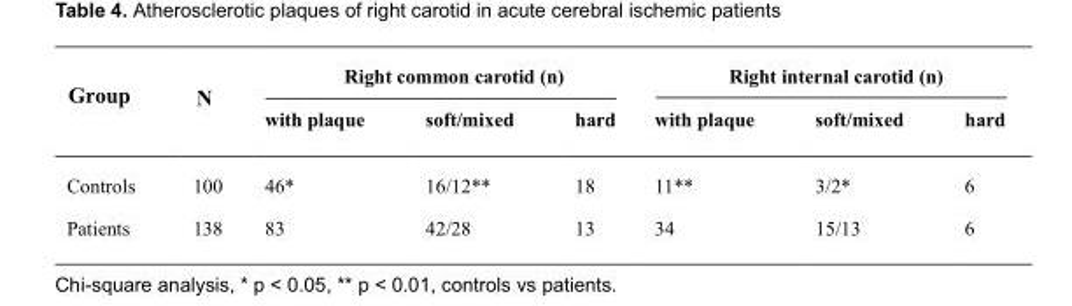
<table><thead><tr><td rowspan="2">Group Group</td><td rowspan="2">N N</td><td colspan="3">Right common carotid (n)</td><td colspan="3">Right internal carotid (n)</td></tr><tr><td>with plaque</td><td>soft/mixed</td><td>hard</td><td>with plaque</td><td>soft/mixed</td><td>hard</td></tr></thead><tbody><tr><td>Controls</td><td>100</td><td>46*</td><td>16/12**</td><td>18</td><td>11**</td><td>3/2*</td><td>6</td></tr><tr><td>Patients</td><td>138</td><td>83</td><td>42/28</td><td>13</td><td>34</td><td>15/13</td><td>6</td></tr></tbody></table>